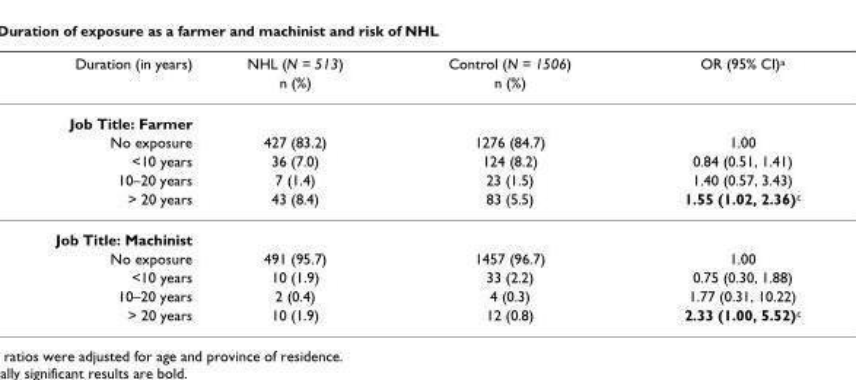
<table><thead><tr><td rowspan="2">Duration (in years)</td><td rowspan="2">NHL (N = 513) n (%)</td><td rowspan="2">Control (N = 1506) n (%)</td><td rowspan="2">OR (95% CI)<sup>a</sup></td></tr><tr></tr></thead><tbody><tr><td colspan="4">Job Title: Farmer</td></tr><tr><td>No exposure</td><td>427 (83.2)</td><td>1276 (84.7)</td><td>1.00</td></tr><tr><td>&lt;10 years</td><td>36 (7.0)</td><td>124 (8.2)</td><td>0.84 (0.51, 1.41)</td></tr><tr><td>10–20 years</td><td>7 (1.4)</td><td>23 (1.5)</td><td>1.40 (0.57, 3.43)</td></tr><tr><td>&gt; 20 years</td><td>43 (8.4)</td><td>83 (5.5)</td><td>1.55 (1.02, 2.36)<sup>c</sup></td></tr><tr><td colspan="4">Job Title: Machinist</td></tr><tr><td>No exposure</td><td>491 (95.7)</td><td>1457 (96.7)</td><td>1.00</td></tr><tr><td>&lt;10 years</td><td>10 (1.9)</td><td>33 (2.2)</td><td>0.75 (0.30, 1.88)</td></tr><tr><td>10–20 years</td><td>2 (0.4)</td><td>4 (0.3)</td><td>1.77 (0.31, 10.22)</td></tr><tr><td>&gt; 20 years</td><td>10 (1.9)</td><td>12 (0.8)</td><td>2.33 (1.00, 5.52)<sup>c</sup></td></tr></tbody></table>